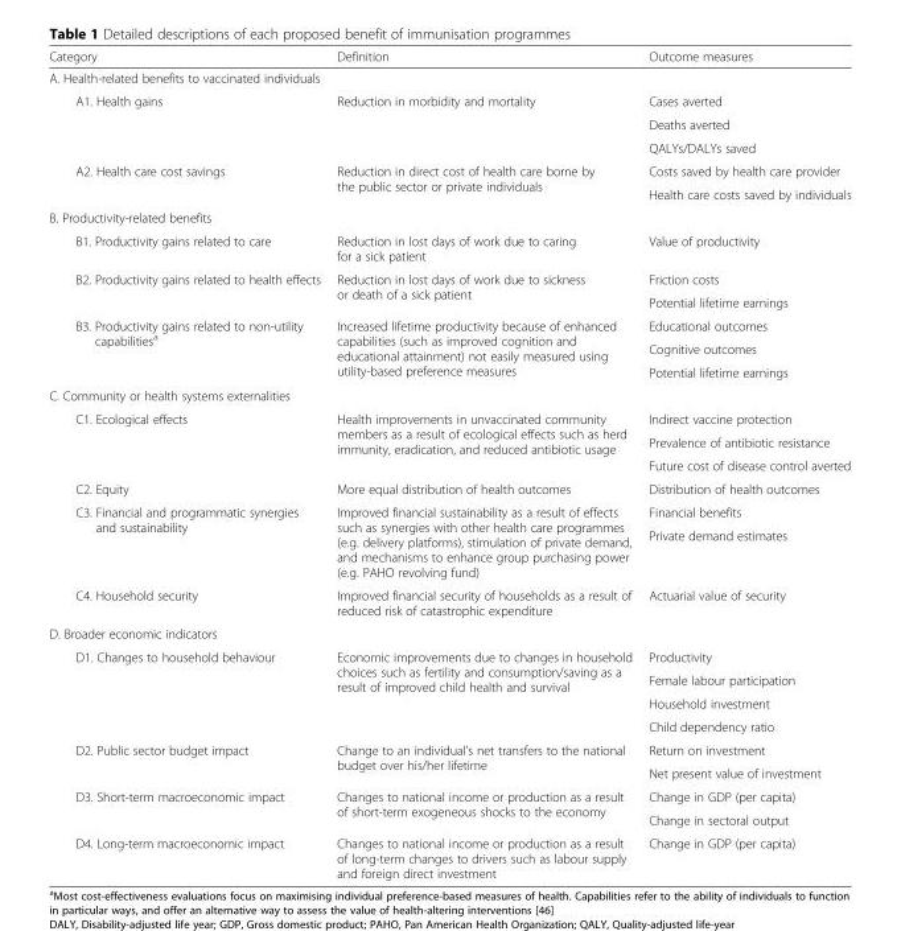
<table><thead><tr><td>Category</td><td>Definition</td><td>Outcome measures</td></tr></thead><tbody><tr><td colspan="3">A. Health-related benefits to vaccinated individuals</td></tr><tr><td rowspan="3">A1. Health gains</td><td rowspan="3">Reduction in morbidity and mortality</td><td>Cases averted</td></tr><tr><td>Deaths averted</td></tr><tr><td>QALYs/DALYs saved</td></tr><tr><td rowspan="2">A2. Health care cost savings</td><td rowspan="2">Reduction in direct cost of health care borne by the public sector or private individuals</td><td>Costs saved by health care provider</td></tr><tr><td>Health care costs saved by individuals</td></tr><tr><td colspan="3">B. Productivity-related benefits</td></tr><tr><td>B1. Productivity gains related to care</td><td>Reduction in lost days of work due to caring for a sick patient</td><td>Value of productivity</td></tr><tr><td rowspan="2">B2. Productivity gains related to health effects</td><td rowspan="2">Reduction in lost days of work due to sickness or death of a sick patient</td><td>Friction costs</td></tr><tr><td>Potential lifetime earnings</td></tr><tr><td rowspan="3">B3. Productivity gains related to non-utility capabilities<sup>a</sup></td><td rowspan="3">Increased lifetime productivity because of enhanced capabilities (such as improved cognition and educational attainment) not easily measured using utility-based preference measures</td><td>Educational outcomes</td></tr><tr><td>Cognitive outcomes</td></tr><tr><td>Potential lifetime earnings</td></tr><tr><td colspan="3">C. Community or health systems externalities</td></tr><tr><td rowspan="3">C1. Ecological effects</td><td rowspan="3">Health improvements in unvaccinated community members as a result of ecological effects such as herd immunity, eradication, and reduced antibiotic usage</td><td>Indirect vaccine protection</td></tr><tr><td>Prevalence of antibiotic resistance</td></tr><tr><td>Future cost of disease control averted</td></tr><tr><td>C2. Equity</td><td>More equal distribution of health outcomes</td><td>Distribution of health outcomes</td></tr><tr><td rowspan="2">C3. Financial and programmatic synergies and sustainability</td><td rowspan="2">Improved financial sustainability as a result of effects such as synergies with other health care programmes (e.g. delivery platforms), stimulation of private demand, and mechanisms to enhance group purchasing power (e.g. PAHO revolving fund)</td><td>Financial benefits</td></tr><tr><td>Private demand estimates</td></tr><tr><td>C4. Household security</td><td>Improved financial security of households as a result of reduced risk of catastrophic expenditure</td><td>Actuarial value of security</td></tr><tr><td colspan="3">D. Broader economic indicators</td></tr><tr><td rowspan="4">D1. Changes to household behaviour</td><td rowspan="4">Economic improvements due to changes in household choices such as fertility and consumption/saving as a result of improved child health and survival</td><td>Productivity</td></tr><tr><td>Female labour participation</td></tr><tr><td>Household investment</td></tr><tr><td>Child dependency ratio</td></tr><tr><td rowspan="2">D2. Public sector budget impact</td><td rowspan="2">Change to an individual’s net transfers to the national budget over his/her lifetime</td><td>Return on investment</td></tr><tr><td>Net present value of investment</td></tr><tr><td rowspan="2">D3. Short-term macroeconomic impact</td><td rowspan="2">Changes to national income or production as a result of short-term exogeneous shocks to the economy</td><td>Change in GDP (per capita)</td></tr><tr><td>Change in sectoral output</td></tr><tr><td>D4. Long-term macroeconomic impact</td><td>Changes to national income or production as a result of long-term changes to drivers such as labour supply and foreign direct investment</td><td>Change in GDP (per capita)</td></tr></tbody></table>